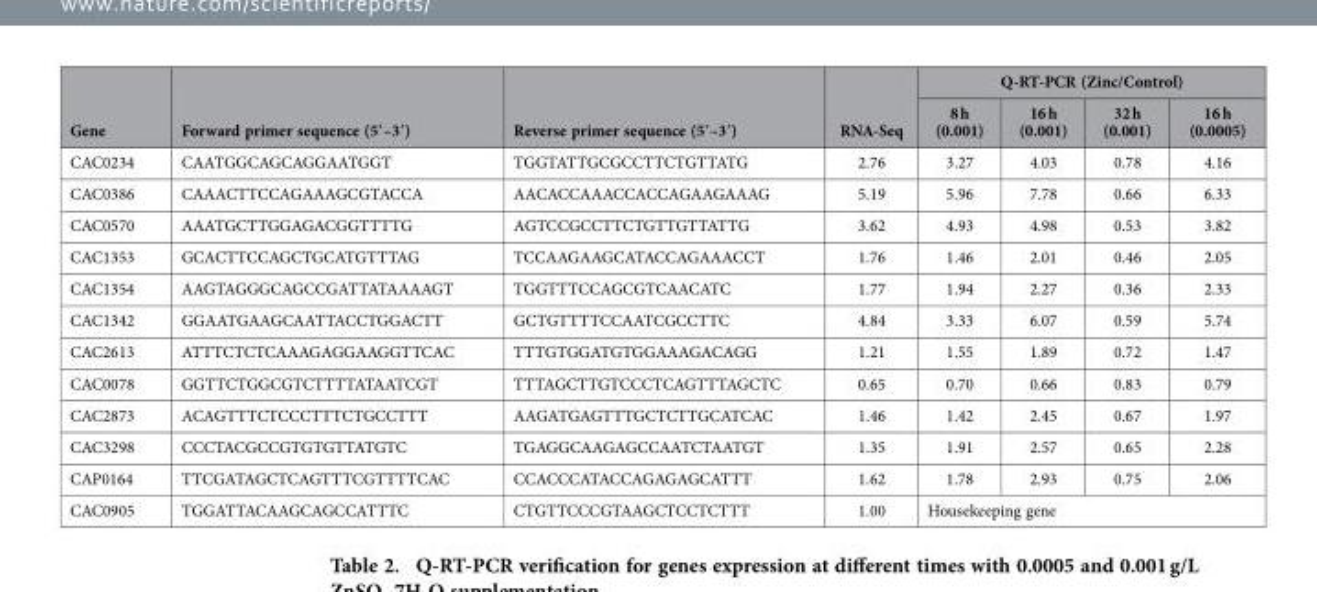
<table><thead><tr><td rowspan="2">Gene</td><td rowspan="2">Forward primer sequence (5′–3′)</td><td rowspan="2">Reverse primer sequence (5′–3′)</td><td rowspan="2">RNA-Seq</td><td colspan="4">Q-RT-PCR (Zinc/Control)</td></tr><tr><td>8 h (0.001)</td><td>16 h (0.001)</td><td>32 h (0.001)</td><td>16 h (0.0005)</td></tr></thead><tbody><tr><td>CAC0234</td><td>CAATGGCAGCAGGAATGGT</td><td>TGGTATTGCGCCTTCTGTTATG</td><td>2.76</td><td>3.27</td><td>4.03</td><td>0.78</td><td>4.16</td></tr><tr><td>CAC0386</td><td>CAAACTTCCAGAAAGCGTACCA</td><td>AACACCAAACCACCAGAAGAAAG</td><td>5.19</td><td>5.96</td><td>7.78</td><td>0.66</td><td>6.33</td></tr><tr><td>CAC0570</td><td>AAATGCTTGGAGACGGTTTTG</td><td>AGTCCGCCTTCTGTTGTTATTG</td><td>3.62</td><td>4.93</td><td>4.98</td><td>0.53</td><td>3.82</td></tr><tr><td>CAC1353</td><td>GCACTTCCAGCTGCATGTTTAG</td><td>TCCAAGAAGCATACCAGAAACCT</td><td>1.76</td><td>1.46</td><td>2.01</td><td>0.46</td><td>2.05</td></tr><tr><td>CAC1354</td><td>AAGTAGGGCAGCCGATTATAAAAGT</td><td>TGGTTTCCAGCGTCAACATC</td><td>1.77</td><td>1.94</td><td>2.27</td><td>0.36</td><td>2.33</td></tr><tr><td>CAC1342</td><td>GGAATGAAGCAATTACCTGGACTT</td><td>GCTGTTTTCCAATCGCCTTC</td><td>4.84</td><td>3.33</td><td>6.07</td><td>0.59</td><td>5.74</td></tr><tr><td>CAC2613</td><td>ATTTCTCTCAAAGAGGAAGGTTCAC</td><td>TTTGTGGATGTGGAAAGACAGG</td><td>1.21</td><td>1.55</td><td>1.89</td><td>0.72</td><td>1.47</td></tr><tr><td>CAC0078</td><td>GGTTCTGGCGTCTTTTATAATCGT</td><td>TTTAGCTTGTCCCTCAGTTTAGCTC</td><td>0.65</td><td>0.70</td><td>0.66</td><td>0.83</td><td>0.79</td></tr><tr><td>CAC2873</td><td>ACAGTTTCTCCCTTTCTGCCTTT</td><td>AAGATGAGTTTGCTCTTGCATCAC</td><td>1.46</td><td>1.42</td><td>2.45</td><td>0.67</td><td>1.97</td></tr><tr><td>CAC3298</td><td>CCCTACGCCGTGTGTTATGTC</td><td>TGAGGCAAGAGCCAATCTAATGT</td><td>1.35</td><td>1.91</td><td>2.57</td><td>0.65</td><td>2.28</td></tr><tr><td>CAP0164</td><td>TTCGATAGCTCAGTTTCGTTTTCAC</td><td>CCACCCATACCAGAGAGCATTT</td><td>1.62</td><td>1.78</td><td>2.93</td><td>0.75</td><td>2.06</td></tr><tr><td>CAC0905</td><td>TGGATTACAAGCAGCCATTTC</td><td>CTGTTCCCGTAAGCTCCTCTTT</td><td>1.00</td><td colspan="4">Housekeeping gene</td></tr></tbody></table>